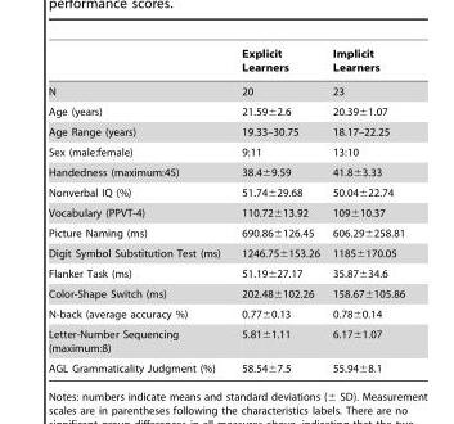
<table><thead><tr><td></td><td>Explicit Learners</td><td>Implicit Learners</td></tr></thead><tbody><tr><td>N</td><td>20</td><td>23</td></tr><tr><td>Age (years)</td><td>21.59±2.6</td><td>20.39±1.07</td></tr><tr><td>Age Range (years)</td><td>19.33–30.75</td><td>18.17–22.25</td></tr><tr><td>Sex (male:female)</td><td>9:11</td><td>13:10</td></tr><tr><td>Handedness (maximum:45)</td><td>38.4±9.59</td><td>41.8±3.33</td></tr><tr><td>Nonverbal IQ (%)</td><td>51.74±29.68</td><td>50.04±22.74</td></tr><tr><td>Vocabulary (PPVT-4)</td><td>110.72±13.92</td><td>109±10.37</td></tr><tr><td>Picture Naming (ms)</td><td>690.86±126.45</td><td>606.29±258.81</td></tr><tr><td>Digit Symbol Substitution Test (ms)</td><td>1246.75±153.26</td><td>1185±170.05</td></tr><tr><td>Flanker Task (ms)</td><td>51.19±27.17</td><td>35.87±34.6</td></tr><tr><td>Color-Shape Switch (ms)</td><td>202.48±102.26</td><td>158.67±105.86</td></tr><tr><td>N-back (average accuracy %)</td><td>0.77±0.13</td><td>0.78±0.14</td></tr><tr><td>Letter-Number Sequencing (maximum:8)</td><td>5.81±1.11</td><td>6.17±1.07</td></tr><tr><td>AGL Grammaticality Judgment (%)</td><td>58.54±7.5</td><td>55.94±8.1</td></tr></tbody></table>